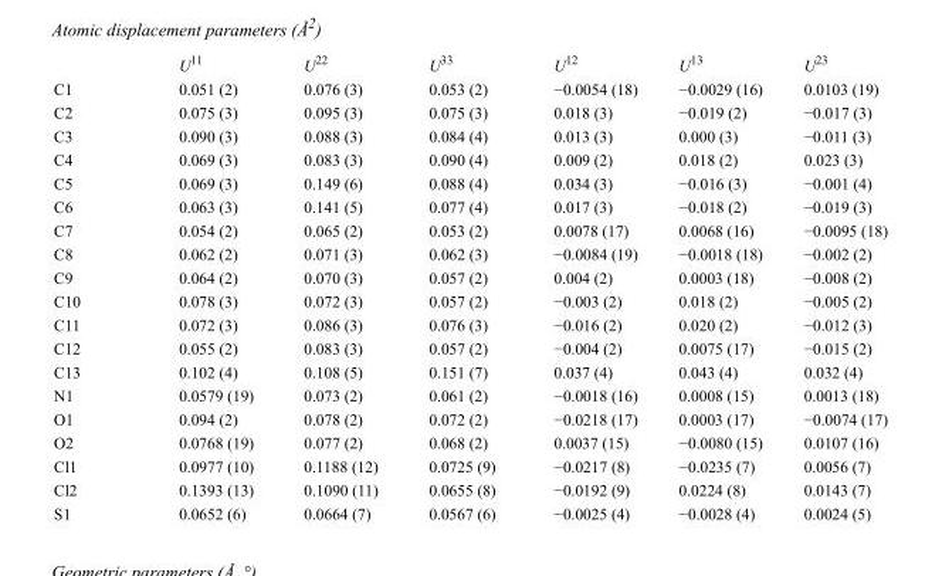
<table><thead><tr><td></td><td>U<sup>11</sup></td><td>U<sup>22</sup></td><td>U<sup>33</sup></td><td>U<sup>12</sup></td><td>U<sup>13</sup></td><td>U<sup>23</sup></td></tr></thead><tbody><tr><td>C1</td><td>0.051 (2)</td><td>0.076 (3)</td><td>0.053 (2)</td><td>−0.0054 (18)</td><td>−0.0029 (16)</td><td>0.0103 (19)</td></tr><tr><td>C2</td><td>0.075 (3)</td><td>0.095 (3)</td><td>0.075 (3)</td><td>0.018 (3)</td><td>−0.019 (2)</td><td>−0.017 (3)</td></tr><tr><td>C3</td><td>0.090 (3)</td><td>0.088 (3)</td><td>0.084 (4)</td><td>0.013 (3)</td><td>0.000 (3)</td><td>−0.011 (3)</td></tr><tr><td>C4</td><td>0.069 (3)</td><td>0.083 (3)</td><td>0.090 (4)</td><td>0.009 (2)</td><td>0.018 (2)</td><td>0.023 (3)</td></tr><tr><td>C5</td><td>0.069 (3)</td><td>0.149 (6)</td><td>0.088 (4)</td><td>0.034 (3)</td><td>−0.016 (3)</td><td>−0.001 (4)</td></tr><tr><td>C6</td><td>0.063 (3)</td><td>0.141 (5)</td><td>0.077 (4)</td><td>0.017 (3)</td><td>−0.018 (2)</td><td>−0.019 (3)</td></tr><tr><td>C7</td><td>0.054 (2)</td><td>0.065 (2)</td><td>0.053 (2)</td><td>0.0078 (17)</td><td>0.0068 (16)</td><td>−0.0095 (18)</td></tr><tr><td>C8</td><td>0.062 (2)</td><td>0.071 (3)</td><td>0.062 (3)</td><td>−0.0084 (19)</td><td>−0.0018 (18)</td><td>−0.002 (2)</td></tr><tr><td>C9</td><td>0.064 (2)</td><td>0.070 (3)</td><td>0.057 (2)</td><td>0.004 (2)</td><td>0.0003 (18)</td><td>−0.008 (2)</td></tr><tr><td>C10</td><td>0.078 (3)</td><td>0.072 (3)</td><td>0.057 (2)</td><td>−0.003 (2)</td><td>0.018 (2)</td><td>−0.005 (2)</td></tr><tr><td>C11</td><td>0.072 (3)</td><td>0.086 (3)</td><td>0.076 (3)</td><td>−0.016 (2)</td><td>0.020 (2)</td><td>−0.012 (3)</td></tr><tr><td>C12</td><td>0.055 (2)</td><td>0.083 (3)</td><td>0.057 (2)</td><td>−0.004 (2)</td><td>0.0075 (17)</td><td>−0.015 (2)</td></tr><tr><td>C13</td><td>0.102 (4)</td><td>0.108 (5)</td><td>0.151 (7)</td><td>0.037 (4)</td><td>0.043 (4)</td><td>0.032 (4)</td></tr><tr><td>N1</td><td>0.0579 (19)</td><td>0.073 (2)</td><td>0.061 (2)</td><td>−0.0018 (16)</td><td>0.0008 (15)</td><td>0.0013 (18)</td></tr><tr><td>O1</td><td>0.094 (2)</td><td>0.078 (2)</td><td>0.072 (2)</td><td>−0.0218 (17)</td><td>0.0003 (17)</td><td>−0.0074 (17)</td></tr><tr><td>O2</td><td>0.0768 (19)</td><td>0.077 (2)</td><td>0.068 (2)</td><td>0.0037 (15)</td><td>−0.0080 (15)</td><td>0.0107 (16)</td></tr><tr><td>Cl1</td><td>0.0977 (10)</td><td>0.1188 (12)</td><td>0.0725 (9)</td><td>−0.0217 (8)</td><td>−0.0235 (7)</td><td>0.0056 (7)</td></tr><tr><td>Cl2</td><td>0.1393 (13)</td><td>0.1090 (11)</td><td>0.0655 (8)</td><td>−0.0192 (9)</td><td>0.0224 (8)</td><td>0.0143 (7)</td></tr><tr><td>S1</td><td>0.0652 (6)</td><td>0.0664 (7)</td><td>0.0567 (6)</td><td>−0.0025 (4)</td><td>−0.0028 (4)</td><td>0.0024 (5)</td></tr></tbody></table>